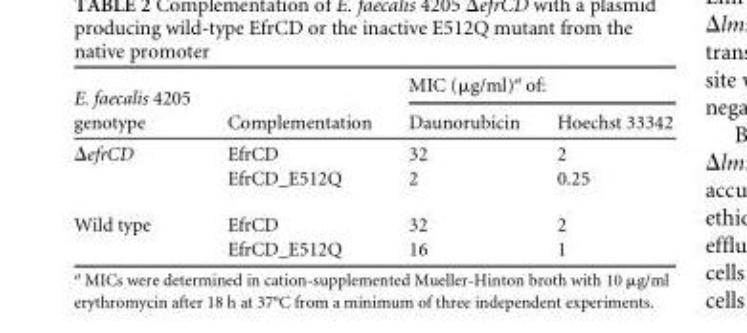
<table><thead><tr><td rowspan="2">E. faecalis 4205 genotype</td><td rowspan="2">Complementation</td><td colspan="2">MIC (μg/ml)<sup>a</sup> of:</td></tr><tr><td>Daunorubicin</td><td>Hoechst 33342</td></tr></thead><tbody><tr><td rowspan="2">ΔefrCD</td><td>EfrCD</td><td>32</td><td>2</td></tr><tr><td>EfrCD_E512Q</td><td>2</td><td>0.25</td></tr><tr><td rowspan="2">Wild type</td><td>EfrCD</td><td>32</td><td>2</td></tr><tr><td>EfrCD_E512Q</td><td>16</td><td>1</td></tr></tbody></table>